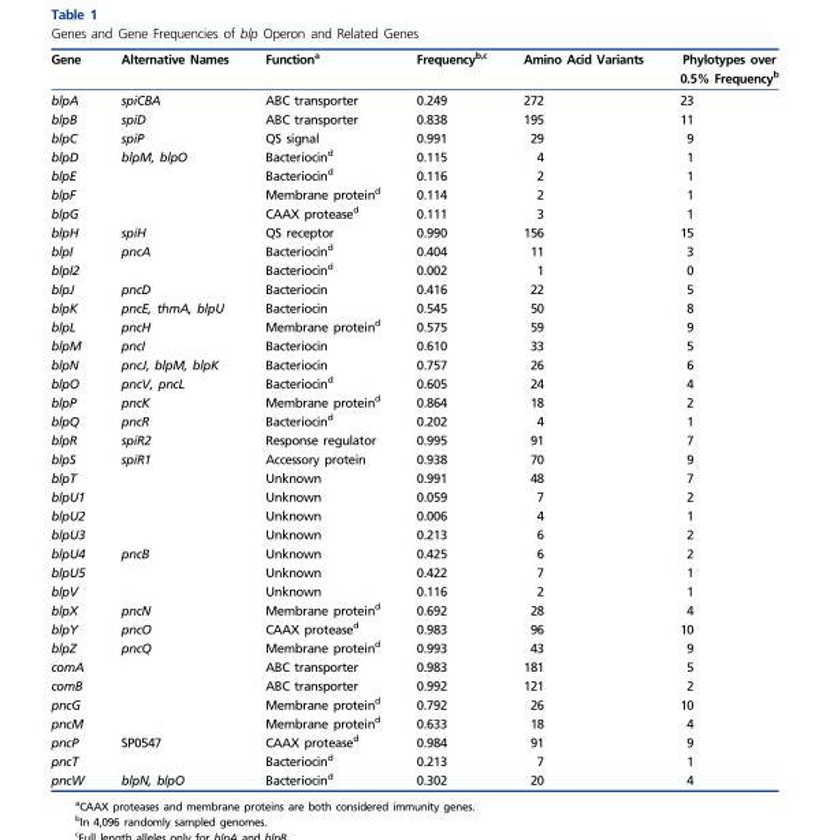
<table><thead><tr><td>Gene</td><td>Alternative Names</td><td>Function<sup>a</sup></td><td>Frequency<sup>b,c</sup></td><td>Amino Acid Variants</td><td>Phylotypes over 0.5% Frequency<sup>b</sup></td></tr></thead><tbody><tr><td>blpA</td><td>spiCBA</td><td>ABC transporter</td><td>0.249</td><td>272</td><td>23</td></tr><tr><td>blpB</td><td>spiD</td><td>ABC transporter</td><td>0.838</td><td>195</td><td>11</td></tr><tr><td>blpC</td><td>spiP</td><td>QS signal</td><td>0.991</td><td>29</td><td>9</td></tr><tr><td>blpD</td><td>blpM, blpO</td><td>Bacteriocin<sup>d</sup></td><td>0.115</td><td>4</td><td>1</td></tr><tr><td>blpE</td><td></td><td>Bacteriocin<sup>d</sup></td><td>0.116</td><td>2</td><td>1</td></tr><tr><td>blpF</td><td></td><td>Membrane protein<sup>d</sup></td><td>0.114</td><td>2</td><td>1</td></tr><tr><td>blpG</td><td></td><td>CAAX protease<sup>d</sup></td><td>0.111</td><td>3</td><td>1</td></tr><tr><td>blpH</td><td>spiH</td><td>QS receptor</td><td>0.990</td><td>156</td><td>15</td></tr><tr><td>blpI</td><td>pncA</td><td>Bacteriocin<sup>d</sup></td><td>0.404</td><td>11</td><td>3</td></tr><tr><td>blpI2</td><td></td><td>Bacteriocin<sup>d</sup></td><td>0.002</td><td>1</td><td>0</td></tr><tr><td>blpJ</td><td>pncD</td><td>Bacteriocin</td><td>0.416</td><td>22</td><td>5</td></tr><tr><td>blpK</td><td>pncE, thmA, blpU</td><td>Bacteriocin</td><td>0.545</td><td>50</td><td>8</td></tr><tr><td>blpL</td><td>pncH</td><td>Membrane protein<sup>d</sup></td><td>0.575</td><td>59</td><td>9</td></tr><tr><td>blpM</td><td>pncI</td><td>Bacteriocin</td><td>0.610</td><td>33</td><td>5</td></tr><tr><td>blpN</td><td>pncJ, blpM, blpK</td><td>Bacteriocin</td><td>0.757</td><td>26</td><td>6</td></tr><tr><td>blpO</td><td>pncV, pncL</td><td>Bacteriocin<sup>d</sup></td><td>0.605</td><td>24</td><td>4</td></tr><tr><td>blpP</td><td>pncK</td><td>Membrane protein<sup>d</sup></td><td>0.864</td><td>18</td><td>2</td></tr><tr><td>blpQ</td><td>pncR</td><td>Bacteriocin<sup>d</sup></td><td>0.202</td><td>4</td><td>1</td></tr><tr><td>blpR</td><td>spiR2</td><td>Response regulator</td><td>0.995</td><td>91</td><td>7</td></tr><tr><td>blpS</td><td>spiR1</td><td>Accessory protein</td><td>0.938</td><td>70</td><td>9</td></tr><tr><td>blpT</td><td></td><td>Unknown</td><td>0.991</td><td>48</td><td>7</td></tr><tr><td>blpU1</td><td></td><td>Unknown</td><td>0.059</td><td>7</td><td>2</td></tr><tr><td>blpU2</td><td></td><td>Unknown</td><td>0.006</td><td>4</td><td>1</td></tr><tr><td>blpU3</td><td></td><td>Unknown</td><td>0.213</td><td>6</td><td>2</td></tr><tr><td>blpU4</td><td>pncB</td><td>Unknown</td><td>0.425</td><td>6</td><td>2</td></tr><tr><td>blpU5</td><td></td><td>Unknown</td><td>0.422</td><td>7</td><td>1</td></tr><tr><td>blpV</td><td></td><td>Unknown</td><td>0.116</td><td>2</td><td>1</td></tr><tr><td>blpX</td><td>pncN</td><td>Membrane protein<sup>d</sup></td><td>0.692</td><td>28</td><td>4</td></tr><tr><td>blpY</td><td>pncO</td><td>CAAX protease<sup>d</sup></td><td>0.983</td><td>96</td><td>10</td></tr><tr><td>blpZ</td><td>pncQ</td><td>Membrane protein<sup>d</sup></td><td>0.993</td><td>43</td><td>9</td></tr><tr><td>comA</td><td></td><td>ABC transporter</td><td>0.983</td><td>181</td><td>5</td></tr><tr><td>comB</td><td></td><td>ABC transporter</td><td>0.992</td><td>121</td><td>2</td></tr><tr><td>pncG</td><td></td><td>Membrane protein<sup>d</sup></td><td>0.792</td><td>26</td><td>10</td></tr><tr><td>pncM</td><td></td><td>Membrane protein<sup>d</sup></td><td>0.633</td><td>18</td><td>4</td></tr><tr><td>pncP</td><td>SP0547</td><td>CAAX protease<sup>d</sup></td><td>0.984</td><td>91</td><td>9</td></tr><tr><td>pncT</td><td></td><td>Bacteriocin<sup>d</sup></td><td>0.213</td><td>7</td><td>1</td></tr><tr><td>pncW</td><td>blpN, blpO</td><td>Bacteriocin<sup>d</sup></td><td>0.302</td><td>20</td><td>4</td></tr></tbody></table>